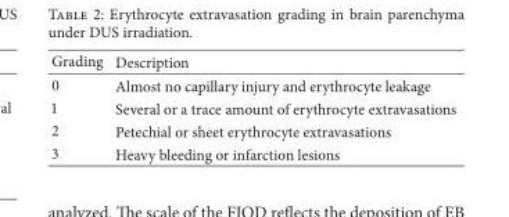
<table><thead><tr><td>Grading</td><td>Description</td></tr></thead><tbody><tr><td>0</td><td>Almost no capillary injury and erythrocyte leakage</td></tr><tr><td>1</td><td>Several or a trace amount of erythrocyte extravasations</td></tr><tr><td>2</td><td>Petechial or sheet erythrocyte extravasations</td></tr><tr><td>3</td><td>Heavy bleeding or infarction lesions</td></tr></tbody></table>